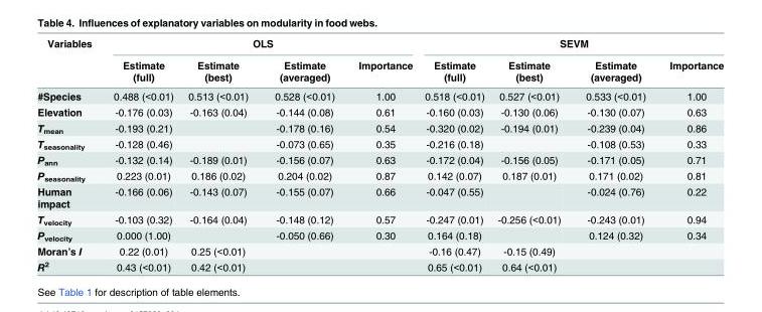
<table><thead><tr><td rowspan="2">Variables</td><td colspan="4">OLS</td><td colspan="4">SEVM</td></tr><tr><td>Estimate (full)</td><td>Estimate (best)</td><td>Estimate (averaged)</td><td>Importance</td><td>Estimate (full)</td><td>Estimate (best)</td><td>Estimate (averaged)</td><td>Importance</td></tr></thead><tbody><tr><td>#Species</td><td>0.488 (&lt;0.01)</td><td>0.513 (&lt;0.01)</td><td>0.528 (&lt;0.01)</td><td>1.00</td><td>0.518 (&lt;0.01)</td><td>0.527 (&lt;0.01)</td><td>0.533 (&lt;0.01)</td><td>1.00</td></tr><tr><td>Elevation</td><td>-0.176 (0.03)</td><td>-0.163 (0.04)</td><td>-0.144 (0.08)</td><td>0.61</td><td>-0.160 (0.03)</td><td>-0.130 (0.06)</td><td>-0.130 (0.07)</td><td>0.63</td></tr><tr><td>T<sub>mean</sub></td><td>-0.193 (0.21)</td><td></td><td>-0.178 (0.16)</td><td>0.54</td><td>-0.320 (0.02)</td><td>-0.194 (0.01)</td><td>-0.239 (0.04)</td><td>0.86</td></tr><tr><td>T<sub>seasonality</sub></td><td>-0.128 (0.46)</td><td></td><td>-0.073 (0.65)</td><td>0.35</td><td>-0.216 (0.18)</td><td></td><td>-0.108 (0.53)</td><td>0.33</td></tr><tr><td>P<sub>ann</sub></td><td>-0.132 (0.14)</td><td>-0.189 (0.01)</td><td>-0.156 (0.07)</td><td>0.63</td><td>-0.172 (0.04)</td><td>-0.156 (0.05)</td><td>-0.171 (0.05)</td><td>0.71</td></tr><tr><td>P<sub>seasonality</sub></td><td>0.223 (0.01)</td><td>0.186 (0.02)</td><td>0.204 (0.02)</td><td>0.87</td><td>0.142 (0.07)</td><td>0.187 (0.01)</td><td>0.171 (0.02)</td><td>0.81</td></tr><tr><td>Human impact</td><td>-0.166 (0.06)</td><td>-0.143 (0.07)</td><td>-0.155 (0.07)</td><td>0.66</td><td>-0.047 (0.55)</td><td></td><td>-0.024 (0.76)</td><td>0.22</td></tr><tr><td>T<sub>velocity</sub></td><td>-0.103 (0.32)</td><td>-0.164 (0.04)</td><td>-0.148 (0.12)</td><td>0.57</td><td>-0.247 (0.01)</td><td>-0.256 (&lt;0.01)</td><td>-0.243 (0.01)</td><td>0.94</td></tr><tr><td>P<sub>velocity</sub></td><td>0.000 (1.00)</td><td></td><td>-0.050 (0.66)</td><td>0.30</td><td>0.164 (0.18)</td><td></td><td>0.124 (0.32)</td><td>0.34</td></tr><tr><td>Moran’s I</td><td>0.22 (0.01)</td><td>0.25 (&lt;0.01)</td><td></td><td></td><td>-0.16 (0.47)</td><td>-0.15 (0.49)</td><td></td><td></td></tr><tr><td>R<sup>2</sup></td><td>0.43 (&lt;0.01)</td><td>0.42 (&lt;0.01)</td><td></td><td></td><td>0.65 (&lt;0.01)</td><td>0.64 (&lt;0.01)</td><td></td><td></td></tr></tbody></table>